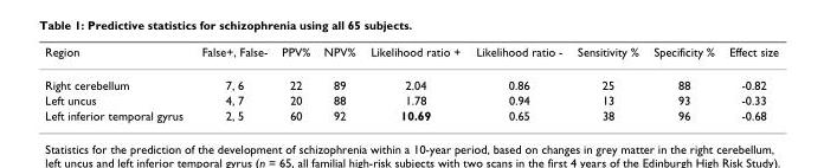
<table><thead><tr><td>Region</td><td>False+, False-</td><td>PPV%</td><td>NPV%</td><td>Likelihood ratio +</td><td>Likelihood ratio -</td><td>Sensitivity %</td><td>Specificity %</td><td>Effect size</td></tr></thead><tbody><tr><td>Right cerebellum</td><td>7, 6</td><td>22</td><td>89</td><td>2.04</td><td>0.86</td><td>25</td><td>88</td><td>-0.82</td></tr><tr><td>Left uncus</td><td>4, 7</td><td>20</td><td>88</td><td>1.78</td><td>0.94</td><td>13</td><td>93</td><td>-0.33</td></tr><tr><td>Left inferior temporal gyrus</td><td>2, 5</td><td>60</td><td>92</td><td>10.69</td><td>0.65</td><td>38</td><td>96</td><td>-0.68</td></tr></tbody></table>